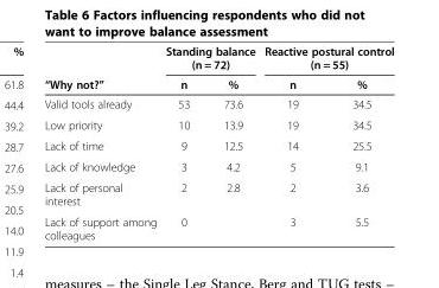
<table><thead><tr><td rowspan="2">“Why not?”</td><td colspan="2">Standing balance (n = 72)</td><td colspan="2">Reactive postural control (n = 55)</td></tr><tr><td>n</td><td>%</td><td>n</td><td>%</td></tr></thead><tbody><tr><td>Valid tools already</td><td>53</td><td>73.6</td><td>19</td><td>34.5</td></tr><tr><td>Low priority</td><td>10</td><td>13.9</td><td>19</td><td>34.5</td></tr><tr><td>Lack of time</td><td>9</td><td>12.5</td><td>14</td><td>25.5</td></tr><tr><td>Lack of knowledge</td><td>3</td><td>4.2</td><td>5</td><td>9.1</td></tr><tr><td>Lack of personal interest</td><td>2</td><td>2.8</td><td>2</td><td>3.6</td></tr><tr><td>Lack of support among colleagues</td><td>0</td><td></td><td>3</td><td>5.5</td></tr></tbody></table>